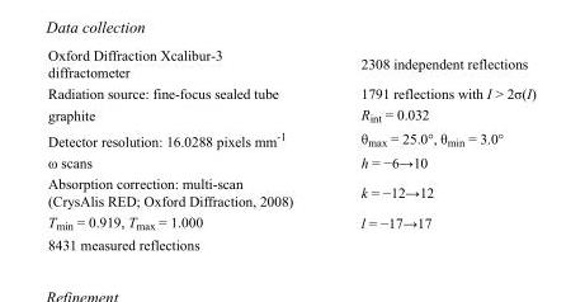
<table><tbody><tr><td>Oxford Diffraction Xcalibur-3 diffractometer</td><td>2308 independent reflections</td></tr><tr><td>Radiation source: fine-focus sealed tube</td><td>1791 reflections with I &gt; 2σ(I)</td></tr><tr><td>graphite</td><td>R<sub>int</sub> = 0.032</td></tr><tr><td>Detector resolution: 16.0288 pixels mm<sup>-1</sup></td><td>θ<sub>max</sub> = 25.0°, θ<sub>min</sub> = 3.0°</td></tr><tr><td>ω scans</td><td>h = −6→10</td></tr><tr><td>Absorption correction: multi-scan (CrysAlis RED; Oxford Diffraction, 2008)</td><td>k = −12→12</td></tr><tr><td>T<sub>min</sub> = 0.919, T<sub>max</sub> = 1.000</td><td>l = −17→17</td></tr><tr><td>8431 measured reflections</td><td></td></tr></tbody></table>